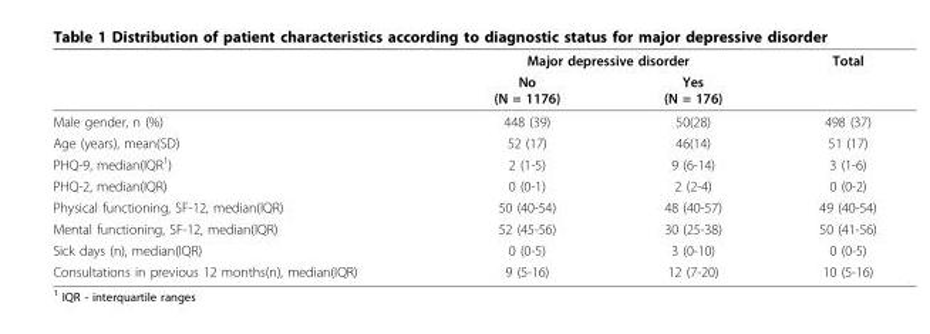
<table><thead><tr><td rowspan="2"></td><td colspan="2">Major depressive disorder</td><td rowspan="2">Total</td></tr><tr><td>No (N = 1176)</td><td>Yes (N = 176)</td></tr></thead><tbody><tr><td>Male gender, n (%)</td><td>448 (39)</td><td>50(28)</td><td>498 (37)</td></tr><tr><td>Age (years), mean(SD)</td><td>52 (17)</td><td>46(14)</td><td>51 (17)</td></tr><tr><td>PHQ-9, median(IQR<sup>1</sup>)</td><td>2 (1-5)</td><td>9 (6-14)</td><td>3 (1-6)</td></tr><tr><td>PHQ-2, median(IQR)</td><td>0 (0-1)</td><td>2 (2-4)</td><td>0 (0-2)</td></tr><tr><td>Physical functioning, SF-12, median(IQR)</td><td>50 (40-54)</td><td>48 (40-57)</td><td>49 (40-54)</td></tr><tr><td>Mental functioning, SF-12, median(IQR)</td><td>52 (45-56)</td><td>30 (25-38)</td><td>50 (41-56)</td></tr><tr><td>Sick days (n), median(IQR)</td><td>0 (0-5)</td><td>3 (0-10)</td><td>0 (0-5)</td></tr><tr><td>Consultations in previous 12 months(n), median(IQR)</td><td>9 (5-16)</td><td>12 (7-20)</td><td>10 (5-16)</td></tr></tbody></table>